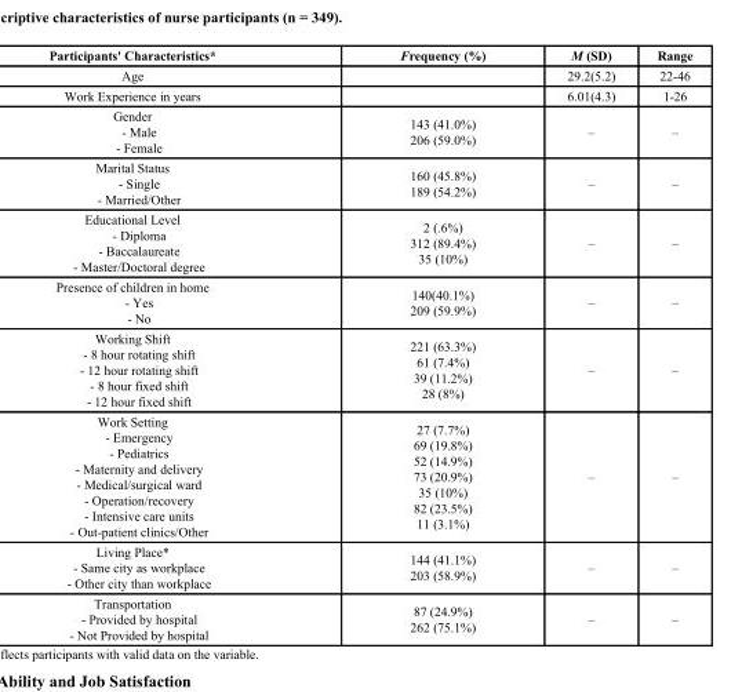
<table><thead><tr><td>Participants&#x27; Characteristics*</td><td>Frequency (%)</td><td>M (SD)</td><td>Range</td></tr></thead><tbody><tr><td>Age</td><td></td><td>29.2(5.2)</td><td>22-46</td></tr><tr><td>Work Experience in years</td><td></td><td>6.01(4.3)</td><td>1-26</td></tr><tr><td>Gender - Male - Female</td><td>143 (41.0%) 206 (59.0%)</td><td>–</td><td>–</td></tr><tr><td>Marital Status - Single - Married/Other</td><td>160 (45.8%) 189 (54.2%)</td><td>–</td><td>–</td></tr><tr><td>Educational Level - Diploma - Baccalaureate - Master/Doctoral degree</td><td>2 (.6%) 312 (89.4%) 35 (10%)</td><td>–</td><td>–</td></tr><tr><td>Presence of children in home - Yes - No</td><td>140(40.1%) 209 (59.9%)</td><td>–</td><td>–</td></tr><tr><td>Working Shift - 8 hour rotating shift - 12 hour rotating shift - 8 hour fixed shift - 12 hour fixed shift</td><td>221 (63.3%) 61 (7.4%) 39 (11.2%) 28 (8%)</td><td>–</td><td>–</td></tr><tr><td>Work Setting - Emergency - Pediatrics - Maternity and delivery - Medical/surgical ward - Operation/recovery - Intensive care units - Out-patient clinics/Other</td><td>27 (7.7%) 69 (19.8%) 52 (14.9%) 73 (20.9%) 35 (10%) 82 (23.5%) 11 (3.1%)</td><td>–</td><td>–</td></tr><tr><td>Living Place* - Same city as workplace - Other city than workplace</td><td>144 (41.1%) 203 (58.9%)</td><td>–</td><td>–</td></tr><tr><td>Transportation - Provided by hospital - Not Provided by hospital</td><td>87 (24.9%) 262 (75.1%)</td><td>–</td><td>–</td></tr></tbody></table>